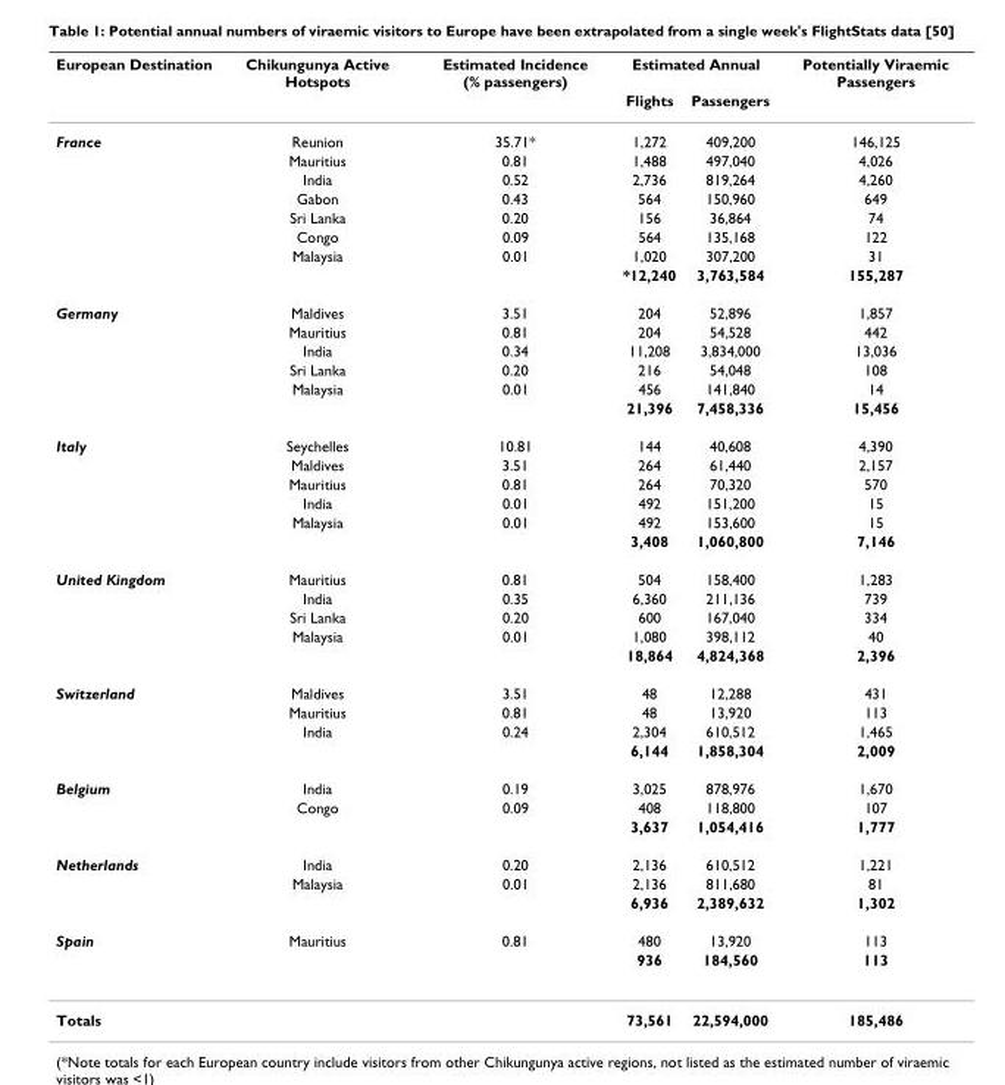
<table><thead><tr><td rowspan="2">European Destination</td><td rowspan="2">Chikungunya Active Hotspots</td><td rowspan="2">Estimated Incidence (% passengers)</td><td colspan="2">Estimated Annual</td><td rowspan="2">Potentially Viraemic Passengers</td></tr><tr><td>Flights</td><td>Passengers</td></tr></thead><tbody><tr><td rowspan="8">France</td><td>Reunion</td><td>35.71*</td><td>1,272</td><td>409,200</td><td>146,125</td></tr><tr><td>Mauritius</td><td>0.81</td><td>1,488</td><td>497,040</td><td>4,026</td></tr><tr><td>India</td><td>0.52</td><td>2,736</td><td>819,264</td><td>4,260</td></tr><tr><td>Gabon</td><td>0.43</td><td>564</td><td>150,960</td><td>649</td></tr><tr><td>Sri Lanka</td><td>0.20</td><td>156</td><td>36,864</td><td>74</td></tr><tr><td>Congo</td><td>0.09</td><td>564</td><td>135,168</td><td>122</td></tr><tr><td>Malaysia</td><td>0.01</td><td>1,020</td><td>307,200</td><td>31</td></tr><tr><td></td><td></td><td>*12,240</td><td>3,763,584</td><td>155,287</td></tr><tr><td rowspan="6">Germany</td><td>Maldives</td><td>3.51</td><td>204</td><td>52,896</td><td>1,857</td></tr><tr><td>Mauritius</td><td>0.81</td><td>204</td><td>54,528</td><td>442</td></tr><tr><td>India</td><td>0.34</td><td>11,208</td><td>3,834,000</td><td>13,036</td></tr><tr><td>Sri Lanka</td><td>0.20</td><td>216</td><td>54,048</td><td>108</td></tr><tr><td>Malaysia</td><td>0.01</td><td>456</td><td>141,840</td><td>14</td></tr><tr><td></td><td></td><td>21,396</td><td>7,458,336</td><td>15,456</td></tr><tr><td rowspan="6">Italy</td><td>Seychelles</td><td>10.81</td><td>144</td><td>40,608</td><td>4,390</td></tr><tr><td>Maldives</td><td>3.51</td><td>264</td><td>61,440</td><td>2,157</td></tr><tr><td>Mauritius</td><td>0.81</td><td>264</td><td>70,320</td><td>570</td></tr><tr><td>India</td><td>0.01</td><td>492</td><td>151,200</td><td>15</td></tr><tr><td>Malaysia</td><td>0.01</td><td>492</td><td>153,600</td><td>15</td></tr><tr><td></td><td></td><td>3,408</td><td>1,060,800</td><td>7,146</td></tr><tr><td rowspan="5">United Kingdom</td><td>Mauritius</td><td>0.81</td><td>504</td><td>158,400</td><td>1,283</td></tr><tr><td>India</td><td>0.35</td><td>6,360</td><td>211,136</td><td>739</td></tr><tr><td>Sri Lanka</td><td>0.20</td><td>600</td><td>167,040</td><td>334</td></tr><tr><td>Malaysia</td><td>0.01</td><td>1,080</td><td>398,112</td><td>40</td></tr><tr><td></td><td></td><td>18,864</td><td>4,824,368</td><td>2,396</td></tr><tr><td rowspan="4">Switzerland</td><td>Maldives</td><td>3.51</td><td>48</td><td>12,288</td><td>431</td></tr><tr><td>Mauritius</td><td>0.81</td><td>48</td><td>13,920</td><td>113</td></tr><tr><td>India</td><td>0.24</td><td>2,304</td><td>610,512</td><td>1,465</td></tr><tr><td></td><td></td><td>6,144</td><td>1,858,304</td><td>2,009</td></tr><tr><td rowspan="3">Belgium</td><td>India</td><td>0.19</td><td>3,025</td><td>878,976</td><td>1,670</td></tr><tr><td>Congo</td><td>0.09</td><td>408</td><td>118,800</td><td>107</td></tr><tr><td></td><td></td><td>3,637</td><td>1,054,416</td><td>1,777</td></tr><tr><td rowspan="3">Netherlands</td><td>India</td><td>0.20</td><td>2,136</td><td>610,512</td><td>1,221</td></tr><tr><td>Malaysia</td><td>0.01</td><td>2,136</td><td>811,680</td><td>81</td></tr><tr><td></td><td></td><td>6,936</td><td>2,389,632</td><td>1,302</td></tr><tr><td rowspan="2">Spain</td><td>Mauritius</td><td>0.81</td><td>480</td><td>13,920</td><td>113</td></tr><tr><td></td><td></td><td>936</td><td>184,560</td><td>113</td></tr><tr><td>Totals</td><td></td><td></td><td>73,561</td><td>22,594,000</td><td>185,486</td></tr></tbody></table>